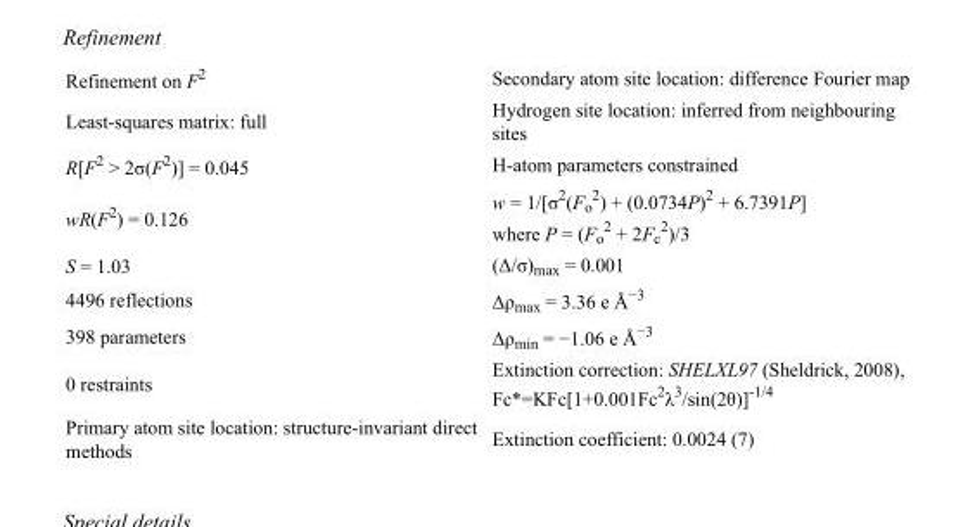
<table><tbody><tr><td>Refinement on F<sup>2</sup></td><td>Secondary atom site location: difference Fourier map</td></tr><tr><td>Least-squares matrix: full</td><td>Hydrogen site location: inferred from neighbouring sites</td></tr><tr><td>R[F<sup>2</sup> &gt; 2σ(F<sup>2</sup>)] = 0.045</td><td>H-atom parameters constrained</td></tr><tr><td>wR(F<sup>2</sup>) = 0.126</td><td>w = 1/[σ<sup>2</sup>(F<sub>o</sub> <sup>2</sup>) + (0.0734P)<sup>2</sup> + 6.7391P] where P = (F<sub>o</sub> <sup>2</sup> + 2F<sub>c</sub> <sup>2</sup>)/3</td></tr><tr><td>S = 1.03</td><td>(Δ/σ)<sub>max</sub> = 0.001</td></tr><tr><td>4496 reflections</td><td>Δρ<sub>max</sub> = 3.36 e Å<sup>−3</sup></td></tr><tr><td>398 parameters</td><td>Δρ<sub>min</sub> = −1.06 e Å<sup>−3</sup></td></tr><tr><td>0 restraints</td><td>Extinction correction: SHELXL97 (Sheldrick, 2008), Fc*=KFc[1+0.001Fc<sup>2</sup>λ<sup>3</sup>/sin(2θ)]<sup>-1/4</sup></td></tr><tr><td>Primary atom site location: structure-invariant direct methods</td><td>Extinction coefficient: 0.0024 (7)</td></tr></tbody></table>